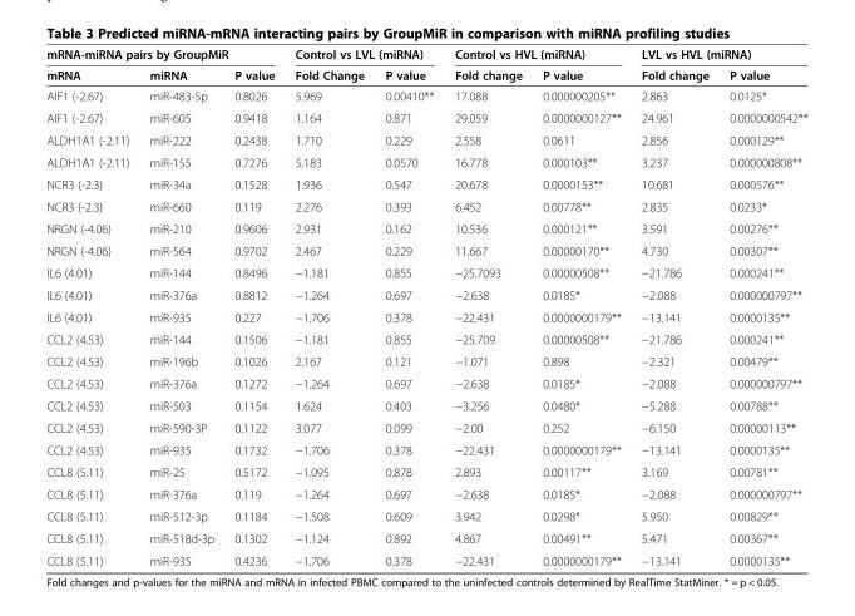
<table><thead><tr><td colspan="3">mRNA-miRNA pairs by GroupMiR</td><td colspan="2">Control vs LVL (miRNA)</td><td colspan="2">Control vs HVL (miRNA)</td><td colspan="2">LVL vs HVL (miRNA)</td></tr><tr><td>mRNA</td><td>miRNA</td><td>P value</td><td>Fold Change</td><td>P value</td><td>Fold change</td><td>P value</td><td>Fold change</td><td>P value</td></tr></thead><tbody><tr><td>AIF1 (-2.67)</td><td>miR-483-5p</td><td>0.8026</td><td>5.969</td><td>0.00410**</td><td>17.088</td><td>0.000000205**</td><td>2.863</td><td>0.0125*</td></tr><tr><td>AIF1 (-2.67)</td><td>miR-605</td><td>0.9418</td><td>1.164</td><td>0.871</td><td>29.059</td><td>0.0000000127**</td><td>24.961</td><td>0.0000000542**</td></tr><tr><td>ALDH1A1 (-2.11)</td><td>miR-222</td><td>0.2438</td><td>1.710</td><td>0.229</td><td>2.558</td><td>0.0611</td><td>2.856</td><td>0.000129**</td></tr><tr><td>ALDH1A1 (-2.11)</td><td>miR-155</td><td>0.7276</td><td>5.183</td><td>0.0570</td><td>16.778</td><td>0.000103**</td><td>3.237</td><td>0.000000808**</td></tr><tr><td>NCR3 (-2.3)</td><td>miR-34a</td><td>0.1528</td><td>1.936</td><td>0.547</td><td>20.678</td><td>0.0000153**</td><td>10.681</td><td>0.000576**</td></tr><tr><td>NCR3 (-2.3)</td><td>miR-660</td><td>0.119</td><td>2.276</td><td>0.393</td><td>6.452</td><td>0.00778**</td><td>2.835</td><td>0.0233*</td></tr><tr><td>NRGN (-4.06)</td><td>miR-210</td><td>0.9606</td><td>2.931</td><td>0.162</td><td>10.536</td><td>0.000121**</td><td>3.591</td><td>0.00276**</td></tr><tr><td>NRGN (-4.06)</td><td>miR-564</td><td>0.9702</td><td>2.467</td><td>0.229</td><td>11.667</td><td>0.00000170**</td><td>4.730</td><td>0.00307**</td></tr><tr><td>IL6 (4.01)</td><td>miR-144</td><td>0.8496</td><td>−1.181</td><td>0.855</td><td>−25.7093</td><td>0.00000508**</td><td>−21.786</td><td>0.000241**</td></tr><tr><td>IL6 (4.01)</td><td>miR-376a</td><td>0.8812</td><td>−1.264</td><td>0.697</td><td>−2.638</td><td>0.0185*</td><td>−2.088</td><td>0.000000797**</td></tr><tr><td>IL6 (4.01)</td><td>miR-935</td><td>0.227</td><td>−1.706</td><td>0.378</td><td>−22.431</td><td>0.0000000179**</td><td>−13.141</td><td>0.0000135**</td></tr><tr><td>CCL2 (4.53)</td><td>miR-144</td><td>0.1506</td><td>−1.181</td><td>0.855</td><td>−25.709</td><td>0.00000508**</td><td>−21.786</td><td>0.000241**</td></tr><tr><td>CCL2 (4.53)</td><td>miR-196b</td><td>0.1026</td><td>2.167</td><td>0.121</td><td>−1.071</td><td>0.898</td><td>−2.321</td><td>0.00479**</td></tr><tr><td>CCL2 (4.53)</td><td>miR-376a</td><td>0.1272</td><td>−1.264</td><td>0.697</td><td>−2.638</td><td>0.0185*</td><td>−2.088</td><td>0.000000797**</td></tr><tr><td>CCL2 (4.53)</td><td>miR-503</td><td>0.1154</td><td>1.624</td><td>0.403</td><td>−3.256</td><td>0.0480*</td><td>−5.288</td><td>0.00788**</td></tr><tr><td>CCL2 (4.53)</td><td>miR-590-3P</td><td>0.1122</td><td>3.077</td><td>0.099</td><td>−2.00</td><td>0.252</td><td>−6.150</td><td>0.00000113**</td></tr><tr><td>CCL2 (4.53)</td><td>miR-935</td><td>0.1732</td><td>−1.706</td><td>0.378</td><td>−22.431</td><td>0.0000000179**</td><td>−13.141</td><td>0.0000135**</td></tr><tr><td>CCL8 (5.11)</td><td>miR-25</td><td>0.5172</td><td>−1.095</td><td>0.878</td><td>2.893</td><td>0.00117**</td><td>3.169</td><td>0.00781**</td></tr><tr><td>CCL8 (5.11)</td><td>miR-376a</td><td>0.119</td><td>−1.264</td><td>0.697</td><td>−2.638</td><td>0.0185*</td><td>−2.088</td><td>0.000000797**</td></tr><tr><td>CCL8 (5.11)</td><td>miR-512-3p</td><td>0.1184</td><td>−1.508</td><td>0.609</td><td>3.942</td><td>0.0298*</td><td>5.950</td><td>0.00829**</td></tr><tr><td>CCL8 (5.11)</td><td>miR-518d-3p</td><td>0.1302</td><td>−1.124</td><td>0.892</td><td>4.867</td><td>0.00491**</td><td>5.471</td><td>0.00367**</td></tr><tr><td>CCL8 (5.11)</td><td>miR-935</td><td>0.4236</td><td>−1.706</td><td>0.378</td><td>−22.431</td><td>0.0000000179**</td><td>−13.141</td><td>0.0000135**</td></tr></tbody></table>